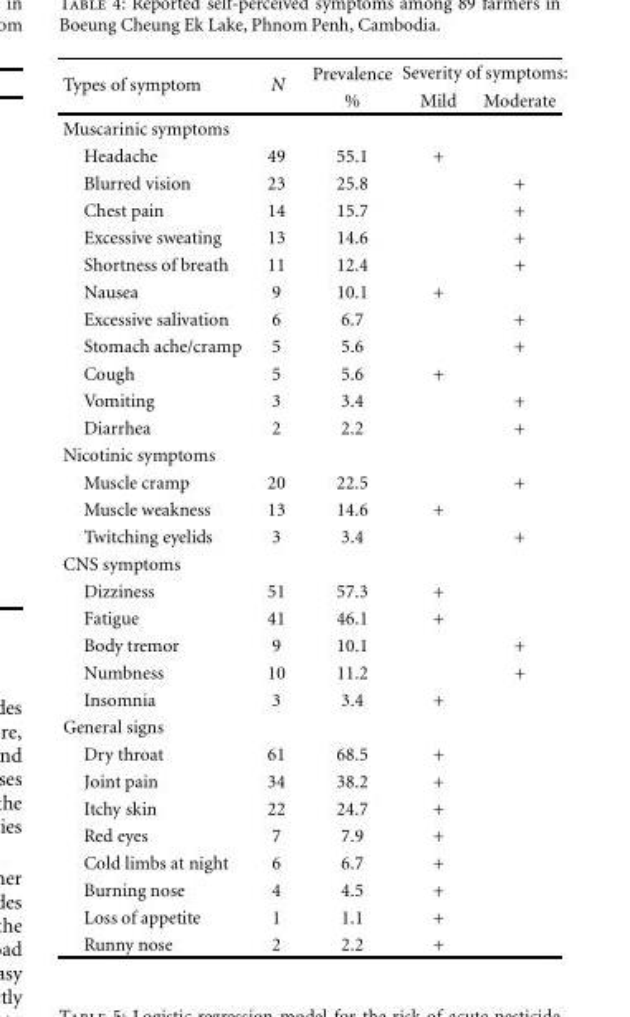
<table><thead><tr><td rowspan="2">Types of symptom</td><td rowspan="2">N</td><td rowspan="2">Prevalence %</td><td colspan="2">Severity of symptoms:</td></tr><tr><td>Mild</td><td>Moderate</td></tr></thead><tbody><tr><td colspan="5">Muscarinic symptoms</td></tr><tr><td>Headache</td><td>49</td><td>55.1</td><td>+</td><td></td></tr><tr><td>Blurred vision</td><td>23</td><td>25.8</td><td></td><td>+</td></tr><tr><td>Chest pain</td><td>14</td><td>15.7</td><td></td><td>+</td></tr><tr><td>Excessive sweating</td><td>13</td><td>14.6</td><td></td><td>+</td></tr><tr><td>Shortness of breath</td><td>11</td><td>12.4</td><td></td><td>+</td></tr><tr><td>Nausea</td><td>9</td><td>10.1</td><td>+</td><td></td></tr><tr><td>Excessive salivation</td><td>6</td><td>6.7</td><td></td><td>+</td></tr><tr><td>Stomach ache/cramp</td><td>5</td><td>5.6</td><td></td><td>+</td></tr><tr><td>Cough</td><td>5</td><td>5.6</td><td>+</td><td></td></tr><tr><td>Vomiting</td><td>3</td><td>3.4</td><td></td><td>+</td></tr><tr><td>Diarrhea</td><td>2</td><td>2.2</td><td></td><td>+</td></tr><tr><td colspan="5">Nicotinic symptoms</td></tr><tr><td>Muscle cramp</td><td>20</td><td>22.5</td><td></td><td>+</td></tr><tr><td>Muscle weakness</td><td>13</td><td>14.6</td><td>+</td><td></td></tr><tr><td>Twitching eyelids</td><td>3</td><td>3.4</td><td></td><td>+</td></tr><tr><td colspan="5">CNS symptoms</td></tr><tr><td>Dizziness</td><td>51</td><td>57.3</td><td>+</td><td></td></tr><tr><td>Fatigue</td><td>41</td><td>46.1</td><td>+</td><td></td></tr><tr><td>Body tremor</td><td>9</td><td>10.1</td><td></td><td>+</td></tr><tr><td>Numbness</td><td>10</td><td>11.2</td><td></td><td>+</td></tr><tr><td>Insomnia</td><td>3</td><td>3.4</td><td>+</td><td></td></tr><tr><td colspan="5">General signs</td></tr><tr><td>Dry throat</td><td>61</td><td>68.5</td><td>+</td><td></td></tr><tr><td>Joint pain</td><td>34</td><td>38.2</td><td>+</td><td></td></tr><tr><td>Itchy skin</td><td>22</td><td>24.7</td><td>+</td><td></td></tr><tr><td>Red eyes</td><td>7</td><td>7.9</td><td>+</td><td></td></tr><tr><td>Cold limbs at night</td><td>6</td><td>6.7</td><td>+</td><td></td></tr><tr><td>Burning nose</td><td>4</td><td>4.5</td><td>+</td><td></td></tr><tr><td>Loss of appetite</td><td>1</td><td>1.1</td><td>+</td><td></td></tr><tr><td>Runny nose</td><td>2</td><td>2.2</td><td>+</td><td></td></tr></tbody></table>